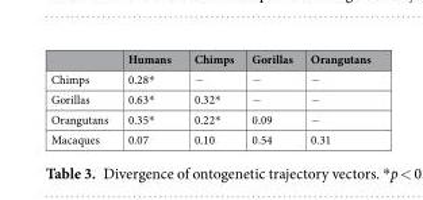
<table><thead><tr><td></td><td>Humans</td><td>Chimps</td><td>Gorillas</td><td>Orangutans</td></tr></thead><tbody><tr><td>Chimps</td><td>0.28*</td><td>−</td><td>−</td><td>−</td></tr><tr><td>Gorillas</td><td>0.63*</td><td>0.32*</td><td>−</td><td>−</td></tr><tr><td>Orangutans</td><td>0.35*</td><td>0.22*</td><td>0.09</td><td>−</td></tr><tr><td>Macaques</td><td>0.07</td><td>0.10</td><td>0.54</td><td>0.31</td></tr></tbody></table>